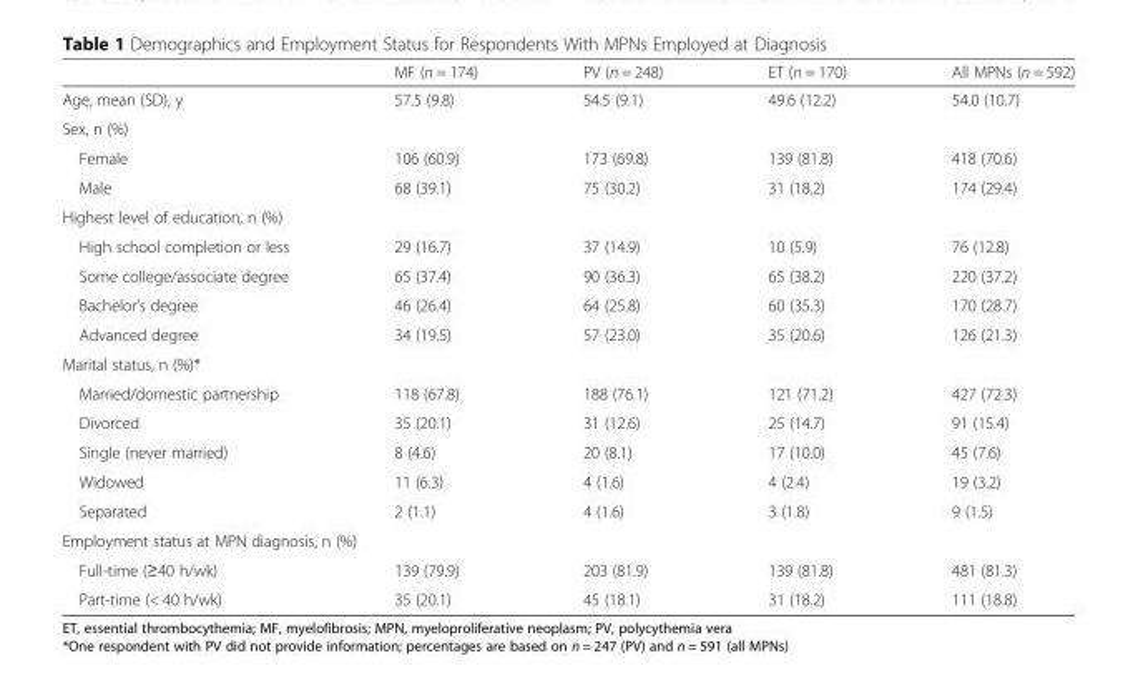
<table><thead><tr><td></td><td>MF (n = 174)</td><td>PV (n = 248)</td><td>ET (n = 170)</td><td>All MPNs (n = 592)</td></tr></thead><tbody><tr><td>Age, mean (SD), y</td><td>57.5 (9.8)</td><td>54.5 (9.1)</td><td>49.6 (12.2)</td><td>54.0 (10.7)</td></tr><tr><td colspan="5">Sex, n (%)</td></tr><tr><td>Female</td><td>106 (60.9)</td><td>173 (69.8)</td><td>139 (81.8)</td><td>418 (70.6)</td></tr><tr><td>Male</td><td>68 (39.1)</td><td>75 (30.2)</td><td>31 (18.2)</td><td>174 (29.4)</td></tr><tr><td colspan="5">Highest level of education, n (%)</td></tr><tr><td>High school completion or less</td><td>29 (16.7)</td><td>37 (14.9)</td><td>10 (5.9)</td><td>76 (12.8)</td></tr><tr><td>Some college/associate degree</td><td>65 (37.4)</td><td>90 (36.3)</td><td>65 (38.2)</td><td>220 (37.2)</td></tr><tr><td>Bachelor’s degree</td><td>46 (26.4)</td><td>64 (25.8)</td><td>60 (35.3)</td><td>170 (28.7)</td></tr><tr><td>Advanced degree</td><td>34 (19.5)</td><td>57 (23.0)</td><td>35 (20.6)</td><td>126 (21.3)</td></tr><tr><td colspan="5">Marital status, n (%)*</td></tr><tr><td>Married/domestic partnership</td><td>118 (67.8)</td><td>188 (76.1)</td><td>121 (71.2)</td><td>427 (72.3)</td></tr><tr><td>Divorced</td><td>35 (20.1)</td><td>31 (12.6)</td><td>25 (14.7)</td><td>91 (15.4)</td></tr><tr><td>Single (never married)</td><td>8 (4.6)</td><td>20 (8.1)</td><td>17 (10.0)</td><td>45 (7.6)</td></tr><tr><td>Widowed</td><td>11 (6.3)</td><td>4 (1.6)</td><td>4 (2.4)</td><td>19 (3.2)</td></tr><tr><td>Separated</td><td>2 (1.1)</td><td>4 (1.6)</td><td>3 (1.8)</td><td>9 (1.5)</td></tr><tr><td colspan="5">Employment status at MPN diagnosis, n (%)</td></tr><tr><td>Full-time (≥40 h/wk)</td><td>139 (79.9)</td><td>203 (81.9)</td><td>139 (81.8)</td><td>481 (81.3)</td></tr><tr><td>Part-time (&lt; 40 h/wk)</td><td>35 (20.1)</td><td>45 (18.1)</td><td>31 (18.2)</td><td>111 (18.8)</td></tr></tbody></table>